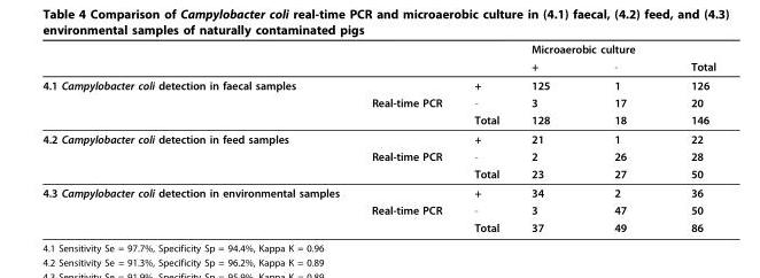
<table><thead><tr><td rowspan="2"></td><td rowspan="2"></td><td rowspan="2"></td><td colspan="2">Microaerobic culture</td><td rowspan="2">Total</td></tr><tr><td>+</td><td>-</td></tr></thead><tbody><tr><td rowspan="3">4.1 Campylobacter coli detection in faecal samples</td><td></td><td>+</td><td>125</td><td>1</td><td>126</td></tr><tr><td>Real-time PCR</td><td>-</td><td>3</td><td>17</td><td>20</td></tr><tr><td></td><td>Total</td><td>128</td><td>18</td><td>146</td></tr><tr><td rowspan="3">4.2 Campylobacter coli detection in feed samples</td><td></td><td>+</td><td>21</td><td>1</td><td>22</td></tr><tr><td>Real-time PCR</td><td>-</td><td>2</td><td>26</td><td>28</td></tr><tr><td></td><td>Total</td><td>23</td><td>27</td><td>50</td></tr><tr><td rowspan="3">4.3 Campylobacter coli detection in environmental samples</td><td></td><td>+</td><td>34</td><td>2</td><td>36</td></tr><tr><td>Real-time PCR</td><td>-</td><td>3</td><td>47</td><td>50</td></tr><tr><td></td><td>Total</td><td>37</td><td>49</td><td>86</td></tr></tbody></table>